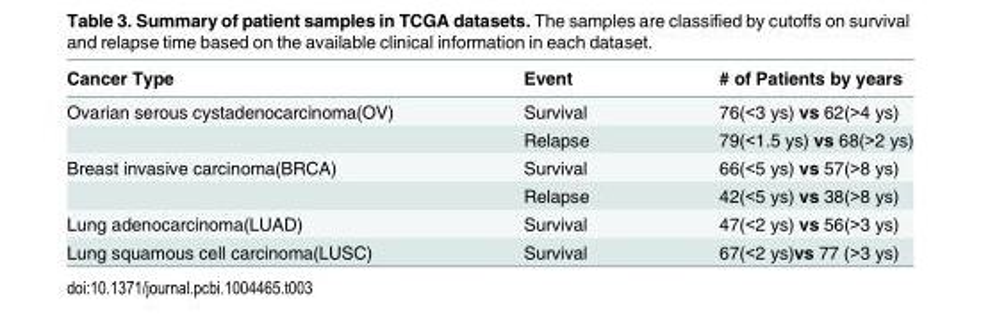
<table><thead><tr><td>Cancer Type</td><td>Event</td><td># of Patients by years</td></tr></thead><tbody><tr><td rowspan="2">Ovarian serous cystadenocarcinoma(OV)</td><td>Survival</td><td>76(&lt;3 ys) vs 62(&gt;4 ys)</td></tr><tr><td>Relapse</td><td>79(&lt;1.5 ys) vs 68(&gt;2 ys)</td></tr><tr><td rowspan="2">Breast invasive carcinoma(BRCA)</td><td>Survival</td><td>66(&lt;5 ys) vs 57(&gt;8 ys)</td></tr><tr><td>Relapse</td><td>42(&lt;5 ys) vs 38(&gt;8 ys)</td></tr><tr><td>Lung adenocarcinoma(LUAD)</td><td>Survival</td><td>47(&lt;2 ys) vs 56(&gt;3 ys)</td></tr><tr><td>Lung squamous cell carcinoma(LUSC)</td><td>Survival</td><td>67(&lt;2 ys)vs 77 (&gt;3 ys)</td></tr></tbody></table>